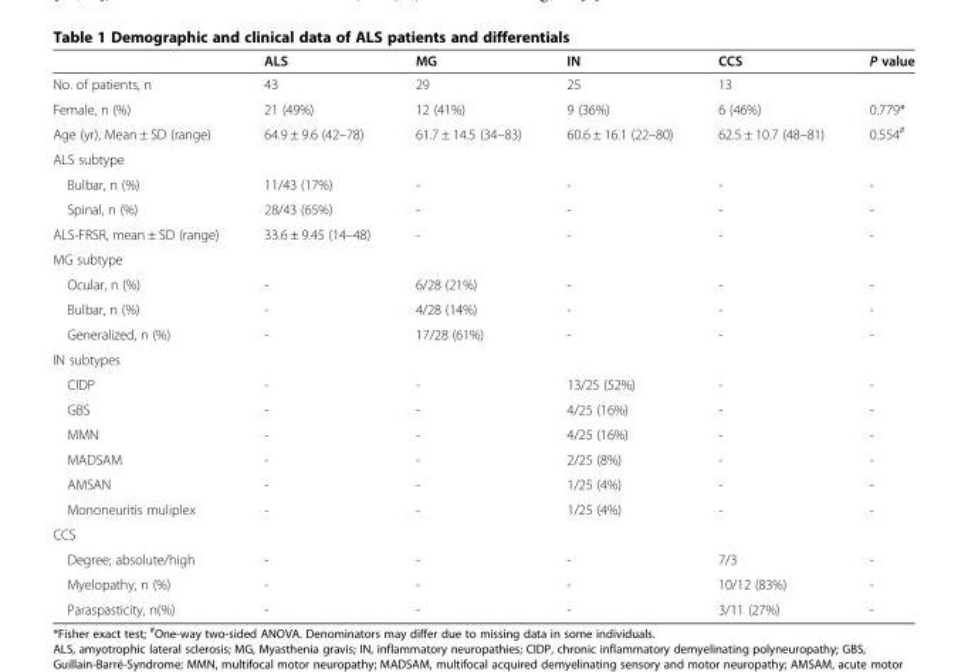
<table><thead><tr><td></td><td>ALS</td><td>MG</td><td>IN</td><td>CCS</td><td>P value</td></tr></thead><tbody><tr><td>No. of patients, n</td><td>43</td><td>29</td><td>25</td><td>13</td><td></td></tr><tr><td>Female, n (%)</td><td>21 (49%)</td><td>12 (41%)</td><td>9 (36%)</td><td>6 (46%)</td><td>0.779*</td></tr><tr><td>Age (yr), Mean ± SD (range)</td><td>64.9 ± 9.6 (42–78)</td><td>61.7 ± 14.5 (34–83)</td><td>60.6 ± 16.1 (22–80)</td><td>62.5 ± 10.7 (48–81)</td><td>0.554<sup>#</sup></td></tr><tr><td colspan="6">ALS subtype</td></tr><tr><td>Bulbar, n (%)</td><td>11/43 (17%)</td><td>-</td><td>-</td><td>-</td><td>-</td></tr><tr><td>Spinal, n (%)</td><td>28/43 (65%)</td><td>-</td><td>-</td><td>-</td><td>-</td></tr><tr><td>ALS-FRSR, mean ± SD (range)</td><td>33.6 ± 9.45 (14–48)</td><td>-</td><td>-</td><td>-</td><td>-</td></tr><tr><td colspan="6">MG subtype</td></tr><tr><td>Ocular, n (%)</td><td>-</td><td>6/28 (21%)</td><td>-</td><td>-</td><td>-</td></tr><tr><td>Bulbar, n (%)</td><td>-</td><td>4/28 (14%)</td><td>-</td><td>-</td><td>-</td></tr><tr><td>Generalized, n (%)</td><td>-</td><td>17/28 (61%)</td><td>-</td><td>-</td><td>-</td></tr><tr><td colspan="6">IN subtypes</td></tr><tr><td>CIDP</td><td>-</td><td>-</td><td>13/25 (52%)</td><td>-</td><td>-</td></tr><tr><td>GBS</td><td>-</td><td>-</td><td>4/25 (16%)</td><td>-</td><td>-</td></tr><tr><td>MMN</td><td>-</td><td>-</td><td>4/25 (16%)</td><td>-</td><td>-</td></tr><tr><td>MADSAM</td><td>-</td><td>-</td><td>2/25 (8%)</td><td>-</td><td>-</td></tr><tr><td>AMSAN</td><td>-</td><td>-</td><td>1/25 (4%)</td><td>-</td><td>-</td></tr><tr><td>Mononeuritis muliplex</td><td>-</td><td>-</td><td>1/25 (4%)</td><td>-</td><td>-</td></tr><tr><td colspan="6">CCS</td></tr><tr><td>Degree; absolute/high</td><td>-</td><td>-</td><td>-</td><td>7/3</td><td>-</td></tr><tr><td>Myelopathy, n (%)</td><td>-</td><td>-</td><td>-</td><td>10/12 (83%)</td><td>-</td></tr><tr><td>Paraspasticity, n(%)</td><td>-</td><td>-</td><td>-</td><td>3/11 (27%)</td><td>-</td></tr></tbody></table>